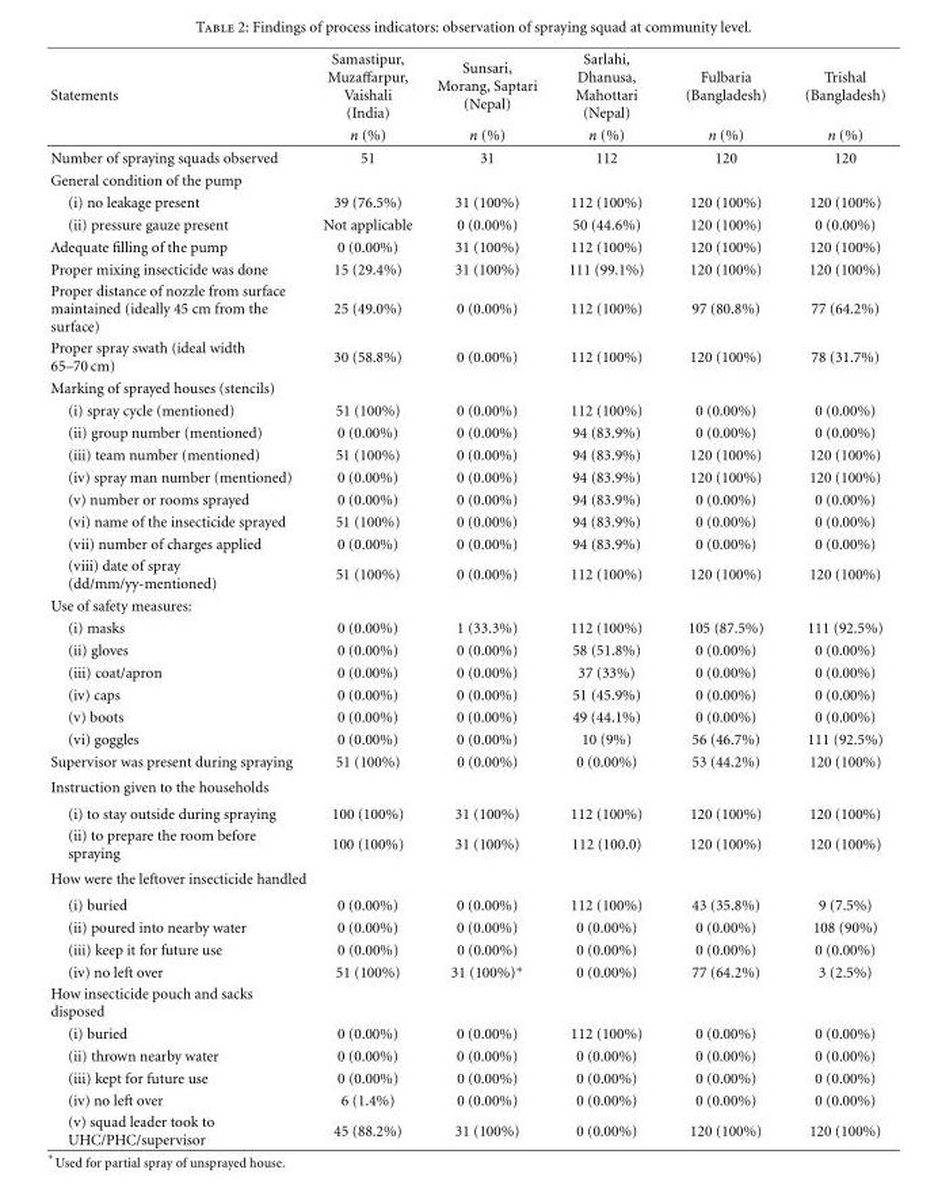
<table><thead><tr><td rowspan="2">Statements</td><td rowspan="2">Samastipur, Muzaffarpur, Vaishali (India) n (%)</td><td rowspan="2">Sunsari, Morang, Saptari (Nepal) n (%)</td><td rowspan="2">Sarlahi, Dhanusa, Mahottari (Nepal) n (%)</td><td rowspan="2">Fulbaria (Bangladesh) n (%)</td><td rowspan="2">Trishal (Bangladesh) n (%)</td></tr><tr></tr></thead><tbody><tr><td>Number of spraying squads observed</td><td>51</td><td>31</td><td>112</td><td>120</td><td>120</td></tr><tr><td colspan="6">General condition of the pump</td></tr><tr><td>(i) no leakage present</td><td>39 (76.5%)</td><td>31 (100%)</td><td>112 (100%)</td><td>120 (100%)</td><td>120 (100%)</td></tr><tr><td>(ii) pressure gauze present</td><td>Not applicable</td><td>0 (0.00%)</td><td>50 (44.6%)</td><td>120 (100%)</td><td>0 (0.00%)</td></tr><tr><td>Adequate filling of the pump</td><td>0 (0.00%)</td><td>31 (100%)</td><td>112 (100%)</td><td>120 (100%)</td><td>120 (100%)</td></tr><tr><td>Proper mixing insecticide was done</td><td>15 (29.4%)</td><td>31 (100%)</td><td>111 (99.1%)</td><td>120 (100%)</td><td>120 (100%)</td></tr><tr><td>Proper distance of nozzle from surface maintained (ideally 45 cm from the surface)</td><td>25 (49.0%)</td><td>0 (0.00%)</td><td>112 (100%)</td><td>97 (80.8%)</td><td>77 (64.2%)</td></tr><tr><td>Proper spray swath (ideal width 65–70 cm)</td><td>30 (58.8%)</td><td>0 (0.00%)</td><td>112 (100%)</td><td>120 (100%)</td><td>78 (31.7%)</td></tr><tr><td colspan="6">Marking of sprayed houses (stencils)</td></tr><tr><td>(i) spray cycle (mentioned)</td><td>51 (100%)</td><td>0 (0.00%)</td><td>112 (100%)</td><td>0 (0.00%)</td><td>0 (0.00%)</td></tr><tr><td>(ii) group number (mentioned)</td><td>0 (0.00%)</td><td>0 (0.00%)</td><td>94 (83.9%)</td><td>0 (0.00%)</td><td>0 (0.00%)</td></tr><tr><td>(iii) team number (mentioned)</td><td>51 (100%)</td><td>0 (0.00%)</td><td>94 (83.9%)</td><td>120 (100%)</td><td>120 (100%)</td></tr><tr><td>(iv) spray man number (mentioned)</td><td>0 (0.00%)</td><td>0 (0.00%)</td><td>94 (83.9%)</td><td>120 (100%)</td><td>120 (100%)</td></tr><tr><td>(v) number or rooms sprayed</td><td>0 (0.00%)</td><td>0 (0.00%)</td><td>94 (83.9%)</td><td>0 (0.00%)</td><td>0 (0.00%)</td></tr><tr><td>(vi) name of the insecticide sprayed</td><td>51 (100%)</td><td>0 (0.00%)</td><td>94 (83.9%)</td><td>0 (0.00%)</td><td>0 (0.00%)</td></tr><tr><td>(vii) number of charges applied</td><td>0 (0.00%)</td><td>0 (0.00%)</td><td>94 (83.9%)</td><td>0 (0.00%)</td><td>0 (0.00%)</td></tr><tr><td>(viii) date of spray (dd/mm/yy-mentioned)</td><td>51 (100%)</td><td>0 (0.00%)</td><td>112 (100%)</td><td>120 (100%)</td><td>120 (100%)</td></tr><tr><td colspan="6">Use of safety measures:</td></tr><tr><td>(i) masks</td><td>0 (0.00%)</td><td>1 (33.3%)</td><td>112 (100%)</td><td>105 (87.5%)</td><td>111 (92.5%)</td></tr><tr><td>(ii) gloves</td><td>0 (0.00%)</td><td>0 (0.00%)</td><td>58 (51.8%)</td><td>0 (0.00%)</td><td>0 (0.00%)</td></tr><tr><td>(iii) coat/apron</td><td>0 (0.00%)</td><td>0 (0.00%)</td><td>37 (33%)</td><td>0 (0.00%)</td><td>0 (0.00%)</td></tr><tr><td>(iv) caps</td><td>0 (0.00%)</td><td>0 (0.00%)</td><td>51 (45.9%)</td><td>0 (0.00%)</td><td>0 (0.00%)</td></tr><tr><td>(v) boots</td><td>0 (0.00%)</td><td>0 (0.00%)</td><td>49 (44.1%)</td><td>0 (0.00%)</td><td>0 (0.00%)</td></tr><tr><td>(vi) goggles</td><td>0 (0.00%)</td><td>0 (0.00%)</td><td>10 (9%)</td><td>56 (46.7%)</td><td>111 (92.5%)</td></tr><tr><td>Supervisor was present during spraying</td><td>51 (100%)</td><td>0 (0.00%)</td><td>0 (0.00%)</td><td>53 (44.2%)</td><td>120 (100%)</td></tr><tr><td colspan="6">Instruction given to the households</td></tr><tr><td>(i) to stay outside during spraying</td><td>100 (100%)</td><td>31 (100%)</td><td>112 (100%)</td><td>120 (100%)</td><td>120 (100%)</td></tr><tr><td>(ii) to prepare the room before spraying</td><td>100 (100%)</td><td>31 (100%)</td><td>112 (100.0)</td><td>120 (100%)</td><td>120 (100%)</td></tr><tr><td colspan="6">How were the leftover insecticide handled</td></tr><tr><td>(i) buried</td><td>0 (0.00%)</td><td>0 (0.00%)</td><td>112 (100%)</td><td>43 (35.8%)</td><td>9 (7.5%)</td></tr><tr><td>(ii) poured into nearby water</td><td>0 (0.00%)</td><td>0 (0.00%)</td><td>0 (0.00%)</td><td>0 (0.00%)</td><td>108 (90%)</td></tr><tr><td>(iii) keep it for future use</td><td>0 (0.00%)</td><td>0 (0.00%)</td><td>0 (0.00%)</td><td>0 (0.00%)</td><td>0 (0.00%)</td></tr><tr><td>(iv) no left over</td><td>51 (100%)</td><td>31 (100%)∗</td><td>0 (0.00%)</td><td>77 (64.2%)</td><td>3 (2.5%)</td></tr><tr><td colspan="6">How insecticide pouch and sacks disposed</td></tr><tr><td>(i) buried</td><td>0 (0.00%)</td><td>0 (0.00%)</td><td>112 (100%)</td><td>0 (0.00%)</td><td>0 (0.00%)</td></tr><tr><td>(ii) thrown nearby water</td><td>0 (0.00%)</td><td>0 (0.00%)</td><td>0 (0.00%)</td><td>0 (0.00%)</td><td>0 (0.00%)</td></tr><tr><td>(iii) kept for future use</td><td>0 (0.00%)</td><td>0 (0.00%)</td><td>0 (0.00%)</td><td>0 (0.00%)</td><td>0 (0.00%)</td></tr><tr><td>(iv) no left over</td><td>6 (1.4%)</td><td>0 (0.00%)</td><td>0 (0.00%)</td><td>0 (0.00%)</td><td>0 (0.00%)</td></tr><tr><td>(v) squad leader took to UHC/PHC/supervisor</td><td>45 (88.2%)</td><td>31 (100%)</td><td>0 (0.00%)</td><td>120 (100%)</td><td>120 (100%)</td></tr></tbody></table>